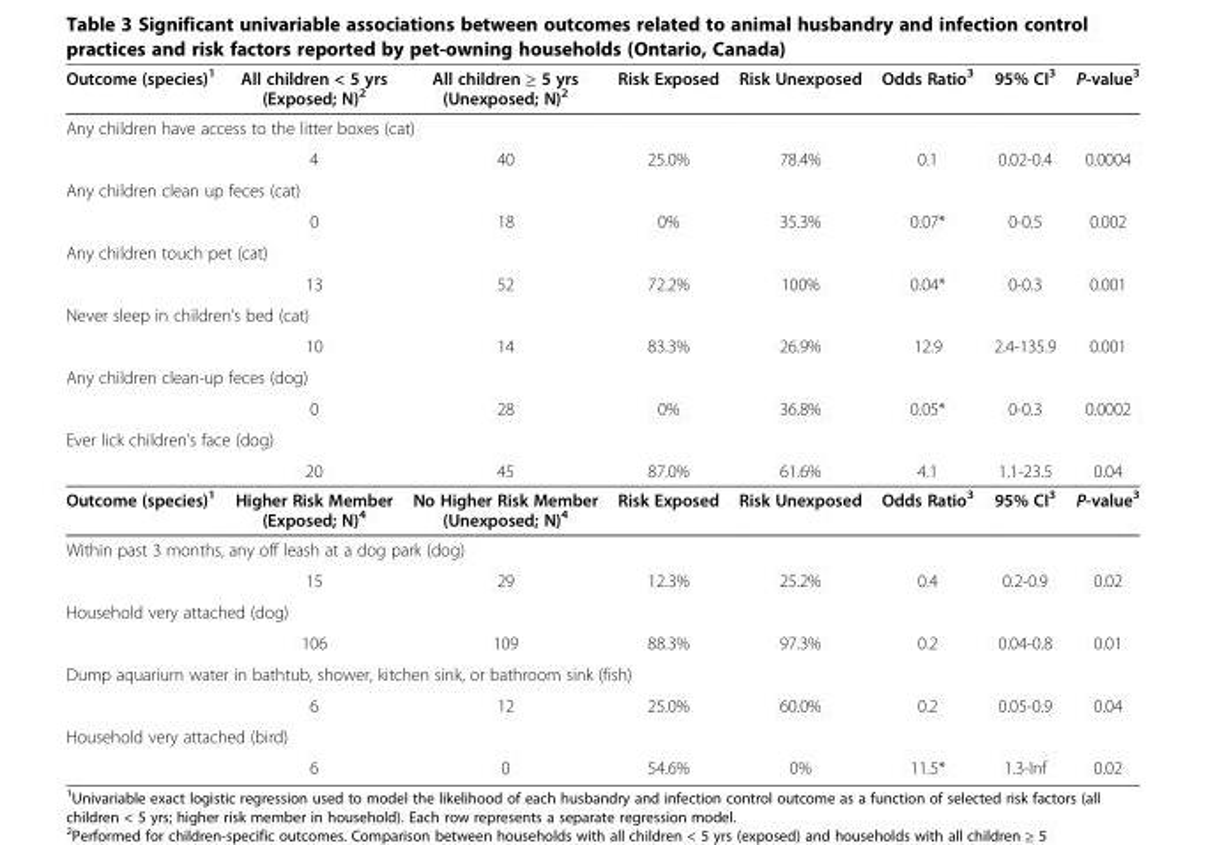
<table><tbody><tr><td>Outcome (species)<sup>1</sup></td><td>All children &lt; 5 yrs (Exposed; N)<sup>2</sup></td><td>All children ≥ 5 yrs (Unexposed; N)<sup>2</sup></td><td>Risk Exposed</td><td>Risk Unexposed</td><td>Odds Ratio<sup>3</sup></td><td>95% CI<sup>3</sup></td><td>P-value<sup>3</sup></td></tr><tr><td colspan="8">Any children have access to the litter boxes (cat)</td></tr><tr><td></td><td>4</td><td>40</td><td>25.0%</td><td>78.4%</td><td>0.1</td><td>0.02-0.4</td><td>0.0004</td></tr><tr><td colspan="8">Any children clean up feces (cat)</td></tr><tr><td></td><td>0</td><td>18</td><td>0%</td><td>35.3%</td><td>0.07*</td><td>0-0.5</td><td>0.002</td></tr><tr><td colspan="8">Any children touch pet (cat)</td></tr><tr><td></td><td>13</td><td>52</td><td>72.2%</td><td>100%</td><td>0.04*</td><td>0-0.3</td><td>0.001</td></tr><tr><td colspan="8">Never sleep in children’s bed (cat)</td></tr><tr><td></td><td>10</td><td>14</td><td>83.3%</td><td>26.9%</td><td>12.9</td><td>2.4-135.9</td><td>0.001</td></tr><tr><td colspan="8">Any children clean-up feces (dog)</td></tr><tr><td></td><td>0</td><td>28</td><td>0%</td><td>36.8%</td><td>0.05*</td><td>0-0.3</td><td>0.0002</td></tr><tr><td colspan="8">Ever lick children’s face (dog)</td></tr><tr><td></td><td>20</td><td>45</td><td>87.0%</td><td>61.6%</td><td>4.1</td><td>1.1-23.5</td><td>0.04</td></tr><tr><td>Outcome (species)<sup>1</sup></td><td>Higher Risk Member (Exposed; N)<sup>4</sup></td><td>No Higher Risk Member (Unexposed; N)<sup>4</sup></td><td>Risk Exposed</td><td>Risk Unexposed</td><td>Odds Ratio<sup>3</sup></td><td>95% CI<sup>3</sup></td><td>P-value<sup>3</sup></td></tr><tr><td colspan="8">Within past 3 months, any off leash at a dog park (dog)</td></tr><tr><td></td><td>15</td><td>29</td><td>12.3%</td><td>25.2%</td><td>0.4</td><td>0.2-0.9</td><td>0.02</td></tr><tr><td colspan="8">Household very attached (dog)</td></tr><tr><td></td><td>106</td><td>109</td><td>88.3%</td><td>97.3%</td><td>0.2</td><td>0.04-0.8</td><td>0.01</td></tr><tr><td colspan="8">Dump aquarium water in bathtub, shower, kitchen sink, or bathroom sink (fish)</td></tr><tr><td></td><td>6</td><td>12</td><td>25.0%</td><td>60.0%</td><td>0.2</td><td>0.05-0.9</td><td>0.04</td></tr><tr><td colspan="8">Household very attached (bird)</td></tr><tr><td></td><td>6</td><td>0</td><td>54.6%</td><td>0%</td><td>11.5*</td><td>1.3-Inf</td><td>0.02</td></tr></tbody></table>